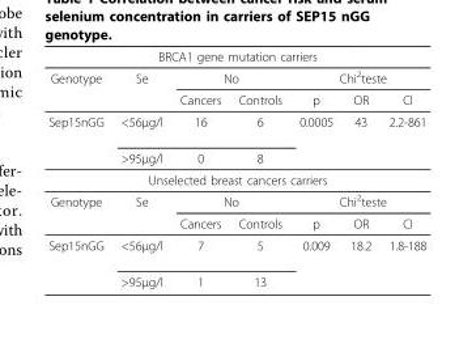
<table><thead><tr><td colspan="7">BRCA1 gene mutation carriers</td></tr><tr><td rowspan="2">Genotype</td><td rowspan="2">Se</td><td colspan="2">No</td><td colspan="3">Chi<sup>2</sup>teste</td></tr><tr><td>Cancers</td><td>Controls</td><td>p</td><td>OR</td><td>CI</td></tr></thead><tbody><tr><td rowspan="2">Sep15nGG</td><td>&lt;56µg/l</td><td>16</td><td>6</td><td>0.0005</td><td>43</td><td>2.2-861</td></tr><tr><td>&gt;95µg/l</td><td>0</td><td>8</td><td></td><td></td><td></td></tr><tr><td colspan="7">Unselected breast cancers carriers</td></tr><tr><td rowspan="2">Genotype</td><td>Se</td><td colspan="2">No</td><td colspan="3">Chi<sup>2</sup>teste</td></tr><tr><td></td><td>Cancers</td><td>Controls</td><td>p</td><td>OR</td><td>CI</td></tr><tr><td rowspan="2">Sep15nGG</td><td>&lt;56µg/l</td><td>7</td><td>5</td><td>0.009</td><td>18.2</td><td>1.8-188</td></tr><tr><td>&gt;95µg/l</td><td>1</td><td>13</td><td></td><td></td><td></td></tr></tbody></table>